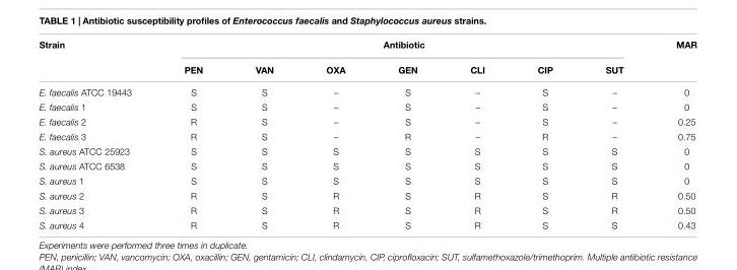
<table><thead><tr><td rowspan="2">Strain</td><td colspan="7">Antibiotic</td><td rowspan="2">MAR</td></tr><tr><td>PEN</td><td>VAN</td><td>OXA</td><td>GEN</td><td>CLI</td><td>CIP</td><td>SUT</td></tr></thead><tbody><tr><td>E. faecalis ATCC 19443</td><td>S</td><td>S</td><td>–</td><td>S</td><td>–</td><td>S</td><td>–</td><td>0</td></tr><tr><td>E. faecalis 1</td><td>S</td><td>S</td><td>–</td><td>S</td><td>–</td><td>S</td><td>–</td><td>0</td></tr><tr><td>E. faecalis 2</td><td>R</td><td>S</td><td>–</td><td>S</td><td>–</td><td>S</td><td>–</td><td>0.25</td></tr><tr><td>E. faecalis 3</td><td>R</td><td>S</td><td>–</td><td>R</td><td>–</td><td>R</td><td>–</td><td>0.75</td></tr><tr><td>S. aureus ATCC 25923</td><td>S</td><td>S</td><td>S</td><td>S</td><td>S</td><td>S</td><td>S</td><td>0</td></tr><tr><td>S. aureus ATCC 6538</td><td>S</td><td>S</td><td>S</td><td>S</td><td>S</td><td>S</td><td>S</td><td>0</td></tr><tr><td>S. aureus 1</td><td>S</td><td>S</td><td>S</td><td>S</td><td>S</td><td>S</td><td>S</td><td>0</td></tr><tr><td>S. aureus 2</td><td>R</td><td>S</td><td>R</td><td>S</td><td>R</td><td>S</td><td>R</td><td>0.50</td></tr><tr><td>S. aureus 3</td><td>R</td><td>S</td><td>R</td><td>S</td><td>R</td><td>S</td><td>R</td><td>0.50</td></tr><tr><td>S. aureus 4</td><td>R</td><td>S</td><td>R</td><td>S</td><td>R</td><td>S</td><td>S</td><td>0.43</td></tr></tbody></table>